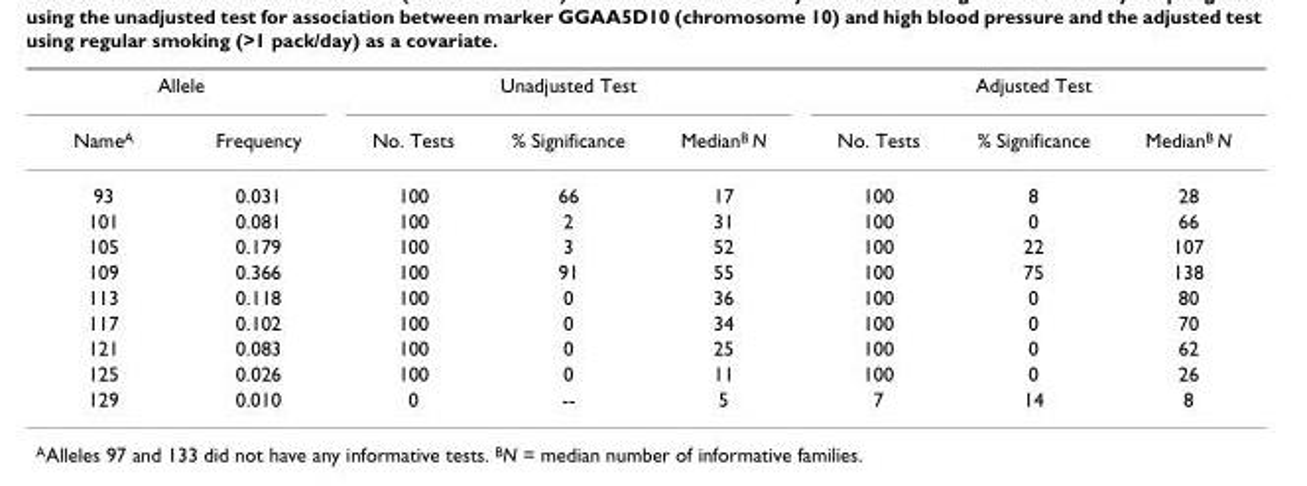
<table><thead><tr><td colspan="2">Allele</td><td colspan="3">Unadjusted Test</td><td colspan="3">Adjusted Test</td></tr><tr><td>NameA</td><td>Frequency</td><td>No. Tests</td><td>% Significance</td><td>MedianB N</td><td>No. Tests</td><td>% Significance</td><td>MedianB N</td></tr></thead><tbody><tr><td>93</td><td>0.031</td><td>100</td><td>66</td><td>17</td><td>100</td><td>8</td><td>28</td></tr><tr><td>101</td><td>0.081</td><td>100</td><td>2</td><td>31</td><td>100</td><td>0</td><td>66</td></tr><tr><td>105</td><td>0.179</td><td>100</td><td>3</td><td>52</td><td>100</td><td>22</td><td>107</td></tr><tr><td>109</td><td>0.366</td><td>100</td><td>91</td><td>55</td><td>100</td><td>75</td><td>138</td></tr><tr><td>113</td><td>0.118</td><td>100</td><td>0</td><td>36</td><td>100</td><td>0</td><td>80</td></tr><tr><td>117</td><td>0.102</td><td>100</td><td>0</td><td>34</td><td>100</td><td>0</td><td>70</td></tr><tr><td>121</td><td>0.083</td><td>100</td><td>0</td><td>25</td><td>100</td><td>0</td><td>62</td></tr><tr><td>125</td><td>0.026</td><td>100</td><td>0</td><td>11</td><td>100</td><td>0</td><td>26</td></tr><tr><td>129</td><td>0.010</td><td>0</td><td>--</td><td>5</td><td>7</td><td>14</td><td>8</td></tr></tbody></table>